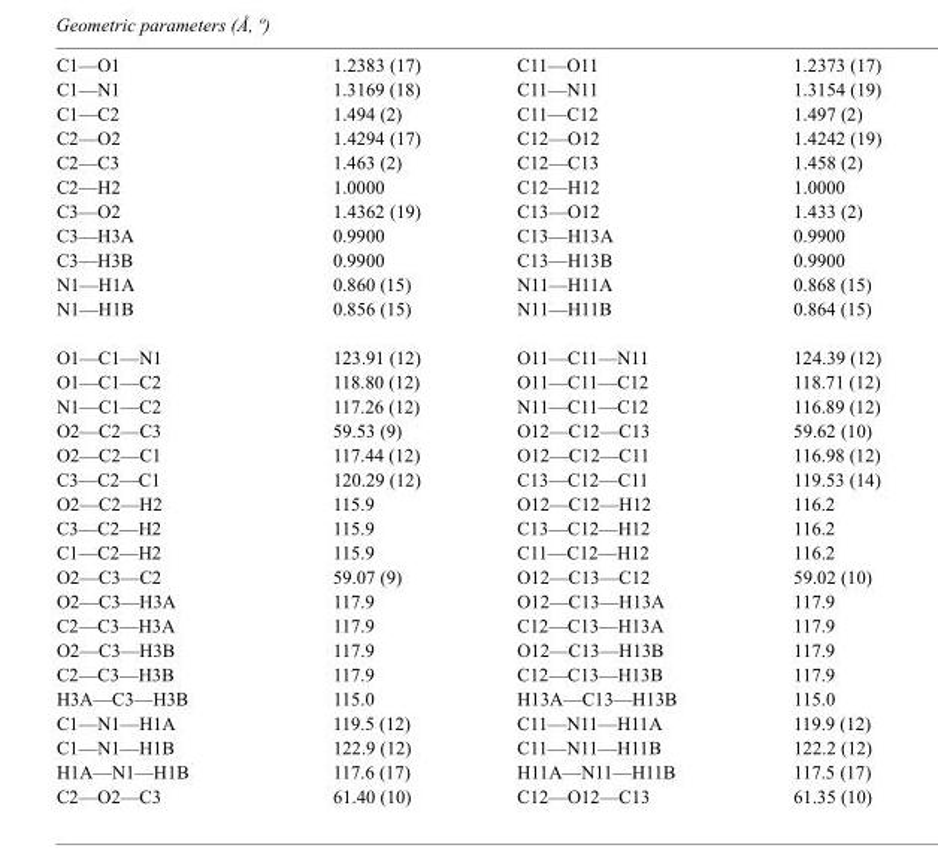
<table><tbody><tr><td>C1—O1</td><td>1.2383 (17)</td><td>C11—O11</td><td>1.2373 (17)</td></tr><tr><td>C1—N1</td><td>1.3169 (18)</td><td>C11—N11</td><td>1.3154 (19)</td></tr><tr><td>C1—C2</td><td>1.494 (2)</td><td>C11—C12</td><td>1.497 (2)</td></tr><tr><td>C2—O2</td><td>1.4294 (17)</td><td>C12—O12</td><td>1.4242 (19)</td></tr><tr><td>C2—C3</td><td>1.463 (2)</td><td>C12—C13</td><td>1.458 (2)</td></tr><tr><td>C2—H2</td><td>1.0000</td><td>C12—H12</td><td>1.0000</td></tr><tr><td>C3—O2</td><td>1.4362 (19)</td><td>C13—O12</td><td>1.433 (2)</td></tr><tr><td>C3—H3A</td><td>0.9900</td><td>C13—H13A</td><td>0.9900</td></tr><tr><td>C3—H3B</td><td>0.9900</td><td>C13—H13B</td><td>0.9900</td></tr><tr><td>N1—H1A</td><td>0.860 (15)</td><td>N11—H11A</td><td>0.868 (15)</td></tr><tr><td>N1—H1B</td><td>0.856 (15)</td><td>N11—H11B</td><td>0.864 (15)</td></tr><tr><td>O1—C1—N1</td><td>123.91 (12)</td><td>O11—C11—N11</td><td>124.39 (12)</td></tr><tr><td>O1—C1—C2</td><td>118.80 (12)</td><td>O11—C11—C12</td><td>118.71 (12)</td></tr><tr><td>N1—C1—C2</td><td>117.26 (12)</td><td>N11—C11—C12</td><td>116.89 (12)</td></tr><tr><td>O2—C2—C3</td><td>59.53 (9)</td><td>O12—C12—C13</td><td>59.62 (10)</td></tr><tr><td>O2—C2—C1</td><td>117.44 (12)</td><td>O12—C12—C11</td><td>116.98 (12)</td></tr><tr><td>C3—C2—C1</td><td>120.29 (12)</td><td>C13—C12—C11</td><td>119.53 (14)</td></tr><tr><td>O2—C2—H2</td><td>115.9</td><td>O12—C12—H12</td><td>116.2</td></tr><tr><td>C3—C2—H2</td><td>115.9</td><td>C13—C12—H12</td><td>116.2</td></tr><tr><td>C1—C2—H2</td><td>115.9</td><td>C11—C12—H12</td><td>116.2</td></tr><tr><td>O2—C3—C2</td><td>59.07 (9)</td><td>O12—C13—C12</td><td>59.02 (10)</td></tr><tr><td>O2—C3—H3A</td><td>117.9</td><td>O12—C13—H13A</td><td>117.9</td></tr><tr><td>C2—C3—H3A</td><td>117.9</td><td>C12—C13—H13A</td><td>117.9</td></tr><tr><td>O2—C3—H3B</td><td>117.9</td><td>O12—C13—H13B</td><td>117.9</td></tr><tr><td>C2—C3—H3B</td><td>117.9</td><td>C12—C13—H13B</td><td>117.9</td></tr><tr><td>H3A—C3—H3B</td><td>115.0</td><td>H13A—C13—H13B</td><td>115.0</td></tr><tr><td>C1—N1—H1A</td><td>119.5 (12)</td><td>C11—N11—H11A</td><td>119.9 (12)</td></tr><tr><td>C1—N1—H1B</td><td>122.9 (12)</td><td>C11—N11—H11B</td><td>122.2 (12)</td></tr><tr><td>H1A—N1—H1B</td><td>117.6 (17)</td><td>H11A—N11—H11B</td><td>117.5 (17)</td></tr><tr><td>C2—O2—C3</td><td>61.40 (10)</td><td>C12—O12—C13</td><td>61.35 (10)</td></tr></tbody></table>